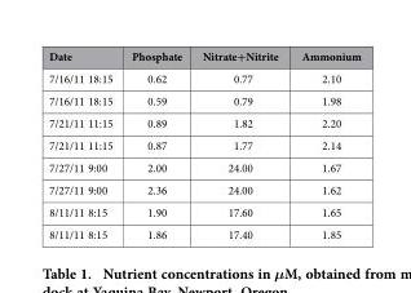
<table><thead><tr><td>Date</td><td>Phosphate</td><td>Nitrate+Nitrite</td><td>Ammonium</td></tr></thead><tbody><tr><td>7/16/11 18:15</td><td>0.62</td><td>0.77</td><td>2.10</td></tr><tr><td>7/16/11 18:15</td><td>0.59</td><td>0.79</td><td>1.98</td></tr><tr><td>7/21/11 11:15</td><td>0.89</td><td>1.82</td><td>2.20</td></tr><tr><td>7/21/11 11:15</td><td>0.87</td><td>1.77</td><td>2.14</td></tr><tr><td>7/27/11 9:00</td><td>2.00</td><td>24.00</td><td>1.67</td></tr><tr><td>7/27/11 9:00</td><td>2.36</td><td>24.00</td><td>1.62</td></tr><tr><td>8/11/11 8:15</td><td>1.90</td><td>17.60</td><td>1.65</td></tr><tr><td>8/11/11 8:15</td><td>1.86</td><td>17.40</td><td>1.85</td></tr></tbody></table>